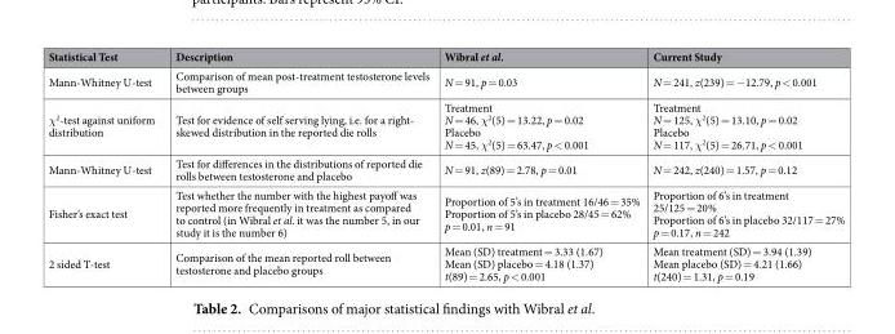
<table><thead><tr><td>Statistical Test</td><td>Description</td><td>Wibral et al.</td><td>Current Study</td></tr></thead><tbody><tr><td>Mann-Whitney U-test</td><td>Comparison of mean post-treatment testosterone levels between groups</td><td>N = 91, p = 0.03</td><td>N = 241, z(239) = −12.79, p &lt; 0.001</td></tr><tr><td>χ<sup>2</sup>-test against uniform distribution</td><td>Test for evidence of self serving lying, i.e. for a right- skewed distribution in the reported die rolls</td><td>Treatment N = 46, χ<sup>2</sup>(5) = 13.22, p = 0.02 Placebo N = 45, χ<sup>2</sup>(5) = 63.47, p &lt; 0.001</td><td>Treatment N = 125, χ<sup>2</sup>(5) = 13.10, p = 0.02 Placebo N = 117, χ<sup>2</sup>(5) = 26.71, p &lt; 0.001</td></tr><tr><td>Mann-Whitney U-test</td><td>Test for differences in the distributions of reported die rolls between testosterone and placebo</td><td>N = 91, z(89) = 2.78, p = 0.01</td><td>N = 242, z(240) = 1.57, p = 0.12</td></tr><tr><td>Fisher’s exact test</td><td>Test whether the number with the highest payoff was reported more frequently in treatment as compared to control (in Wibral et al. it was the number 5, in our study it is the number 6)</td><td>Proportion of 5’s in treatment 16/46 = 35% Proportion of 5’s in placebo 28/45 = 62% p = 0.01, n = 91</td><td>Proportion of 6’s in treatment 25/125 = 20% Proportion of 6’s in placebo 32/117 = 27% p = 0.17, n = 242</td></tr><tr><td>2 sided T-test</td><td>Comparison of the mean reported roll between testosterone and placebo groups</td><td>Mean (SD) treatment = 3.33 (1.67) Mean (SD) placebo = 4.18 (1.37) t(89) = 2.65, p &lt; 0.001</td><td>Mean treatment (SD) = 3.94 (1.39) Mean placebo (SD) = 4.21 (1.66) t(240) = 1.31, p = 0.19</td></tr></tbody></table>